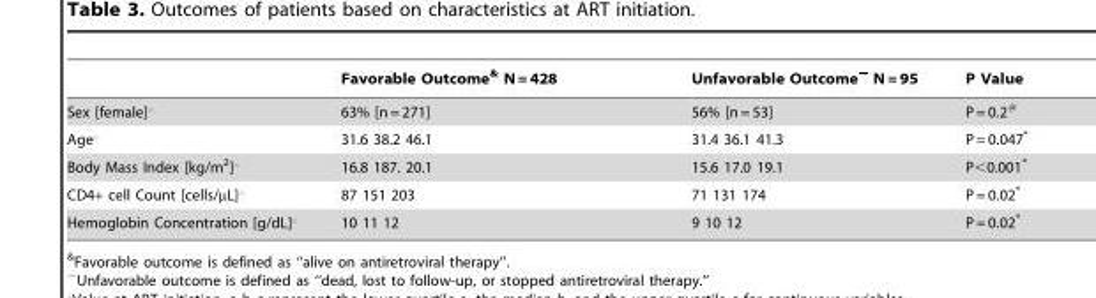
<table><thead><tr><td></td><td>Favorable Outcome&amp; N = 428</td><td>Unfavorable Outcome∼ N = 95</td><td>P Value</td></tr></thead><tbody><tr><td>Sex [female]‘</td><td>63% [n = 271]</td><td>56% [n = 53]</td><td>P = 0.2#</td></tr><tr><td>Age‘</td><td>31.6 38.2 46.1</td><td>31.4 36.1 41.3</td><td>P = 0.047*</td></tr><tr><td>Body Mass Index [kg/m2]‘</td><td>16.8 187. 20.1</td><td>15.6 17.0 19.1</td><td>P&lt;0.001*</td></tr><tr><td>CD4+ cell Count [cells/mL]‘</td><td>87 151 203</td><td>71 131 174</td><td>P = 0.02*</td></tr><tr><td>Hemoglobin Concentration [g/dL]‘</td><td>10 11 12</td><td>9 10 12</td><td>P = 0.02*</td></tr></tbody></table>